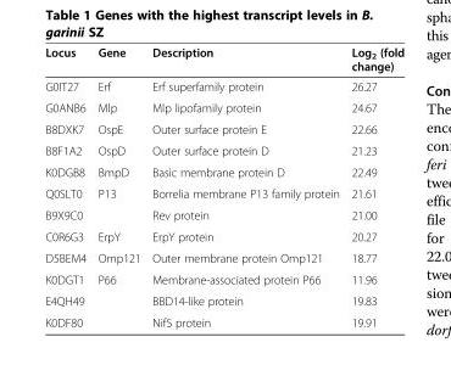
<table><thead><tr><td>Locus</td><td>Gene</td><td>Description</td><td>Log<sub>2</sub> (fold change)</td></tr></thead><tbody><tr><td>G0IT27</td><td>Erf</td><td>Erf superfamily protein</td><td>26.27</td></tr><tr><td>G0ANB6</td><td>Mlp</td><td>Mlp lipofamily protein</td><td>24.67</td></tr><tr><td>B8DXK7</td><td>OspE</td><td>Outer surface protein E</td><td>22.66</td></tr><tr><td>B8F1A2</td><td>OspD</td><td>Outer surface protein D</td><td>21.23</td></tr><tr><td>K0DGB8</td><td>BmpD</td><td>Basic membrane protein D</td><td>22.49</td></tr><tr><td>Q0SLT0</td><td>P13</td><td>Borrelia membrane P13 family protein</td><td>21.61</td></tr><tr><td>B9X9C0</td><td></td><td>Rev protein</td><td>21.00</td></tr><tr><td>C0R6G3</td><td>ErpY</td><td>ErpY protein</td><td>20.27</td></tr><tr><td>D5BEM4</td><td>Omp121</td><td>Outer membrane protein Omp121</td><td>18.77</td></tr><tr><td>K0DGT1</td><td>P66</td><td>Membrane-associated protein P66</td><td>11.96</td></tr><tr><td>E4QH49</td><td></td><td>BBD14-like protein</td><td>19.83</td></tr><tr><td>K0DF80</td><td></td><td>NifS protein</td><td>19.91</td></tr></tbody></table>